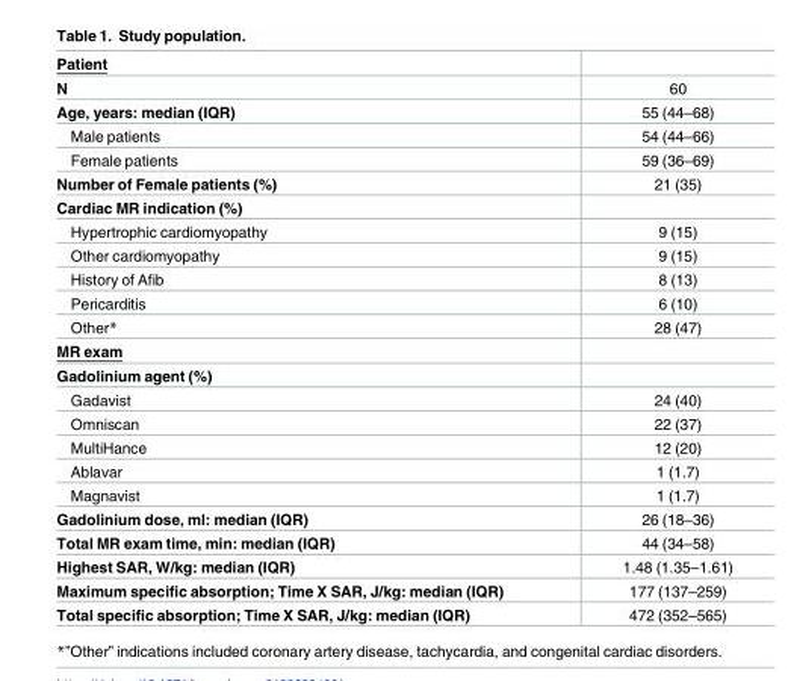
<table><tbody><tr><td colspan="2">Patient</td></tr><tr><td>N</td><td>60</td></tr><tr><td>Age, years: median (IQR)</td><td>55 (44–68)</td></tr><tr><td>Male patients</td><td>54 (44–66)</td></tr><tr><td>Female patients</td><td>59 (36–69)</td></tr><tr><td>Number of Female patients (%)</td><td>21 (35)</td></tr><tr><td colspan="2">Cardiac MR indication (%)</td></tr><tr><td>Hypertrophic cardiomyopathy</td><td>9 (15)</td></tr><tr><td>Other cardiomyopathy</td><td>9 (15)</td></tr><tr><td>History of Afib</td><td>8 (13)</td></tr><tr><td>Pericarditis</td><td>6 (10)</td></tr><tr><td>Other*</td><td>28 (47)</td></tr><tr><td colspan="2">MR exam</td></tr><tr><td colspan="2">Gadolinium agent (%)</td></tr><tr><td>Gadavist</td><td>24 (40)</td></tr><tr><td>Omniscan</td><td>22 (37)</td></tr><tr><td>MultiHance</td><td>12 (20)</td></tr><tr><td>Ablavar</td><td>1 (1.7)</td></tr><tr><td>Magnavist</td><td>1 (1.7)</td></tr><tr><td>Gadolinium dose, ml: median (IQR)</td><td>26 (18–36)</td></tr><tr><td>Total MR exam time, min: median (IQR)</td><td>44 (34–58)</td></tr><tr><td>Highest SAR, W/kg: median (IQR)</td><td>1.48 (1.35–1.61)</td></tr><tr><td>Maximum specific absorption; Time X SAR, J/kg: median (IQR)</td><td>177 (137–259)</td></tr><tr><td>Total specific absorption; Time X SAR, J/kg: median (IQR)</td><td>472 (352–565)</td></tr></tbody></table>